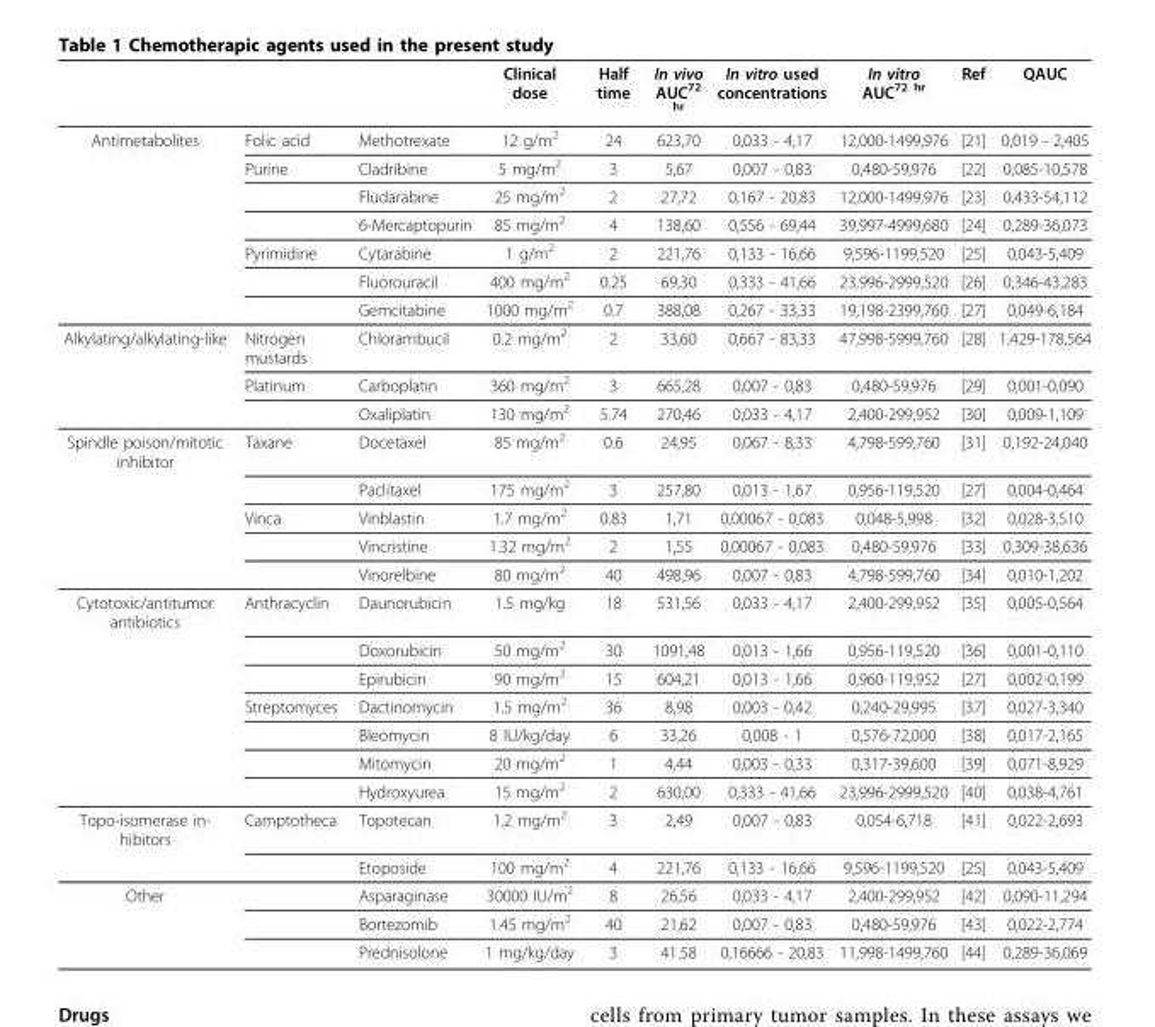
<table><thead><tr><td></td><td></td><td></td><td>Clinical dose</td><td>Half time</td><td>In vivo AUC<sup>72 hr</sup></td><td>In vitro used concentrations</td><td>In vitro AUC<sup>72 hr</sup></td><td>Ref</td><td>QAUC</td></tr></thead><tbody><tr><td rowspan="7">Antimetabolites</td><td>Folic acid</td><td>Methotrexate</td><td>12 g/m<sup>2</sup></td><td>24</td><td>623,70</td><td>0,033 - 4,17</td><td>12,000-1499,976</td><td>[21]</td><td>0,019 - 2,405</td></tr><tr><td>Purine</td><td>Cladribine</td><td>5 mg/m<sup>2</sup></td><td>3</td><td>5,67</td><td>0,007 - 0,83</td><td>0,480-59,976</td><td>[22]</td><td>0,085-10,578</td></tr><tr><td></td><td>Fludarabine</td><td>25 mg/m<sup>2</sup></td><td>2</td><td>27,72</td><td>0,167 - 20,83</td><td>12,000-1499,976</td><td>[23]</td><td>0,433-54,112</td></tr><tr><td></td><td>6-Mercaptopurin</td><td>85 mg/m<sup>2</sup></td><td>4</td><td>138,60</td><td>0,556 - 69,44</td><td>39,997-4999,680</td><td>[24]</td><td>0,289-36,073</td></tr><tr><td>Pyrimidine</td><td>Cytarabine</td><td>1 g/m<sup>2</sup></td><td>2</td><td>221,76</td><td>0,133 - 16,66</td><td>9,596-1199,520</td><td>[25]</td><td>0,043-5,409</td></tr><tr><td></td><td>Fluorouracil</td><td>400 mg/m<sup>2</sup></td><td>0.25</td><td>69,30</td><td>0,333 - 41,66</td><td>23,996-2999,520</td><td>[26]</td><td>0,346-43,283</td></tr><tr><td></td><td>Gemcitabine</td><td>1000 mg/m<sup>2</sup></td><td>0.7</td><td>388,08</td><td>0,267 - 33,33</td><td>19,198-2399,760</td><td>[27]</td><td>0,049-6,184</td></tr><tr><td rowspan="3">Alkylating/alkylating-like</td><td>Nitrogen mustards</td><td>Chlorambucil</td><td>0.2 mg/m<sup>2</sup></td><td>2</td><td>33,60</td><td>0,667 - 83,33</td><td>47,998-5999,760</td><td>[28]</td><td>1,429-178,564</td></tr><tr><td>Platinum</td><td>Carboplatin</td><td>360 mg/m<sup>2</sup></td><td>3</td><td>665,28</td><td>0,007 - 0,83</td><td>0,480-59,976</td><td>[29]</td><td>0,001-0,090</td></tr><tr><td></td><td>Oxaliplatin</td><td>130 mg/m<sup>2</sup></td><td>5.74</td><td>270,46</td><td>0,033 - 4,17</td><td>2,400-299,952</td><td>[30]</td><td>0,009-1,109</td></tr><tr><td rowspan="5">Spindle poison/mitotic inhibitor</td><td>Taxane</td><td>Docetaxel</td><td>85 mg/m<sup>2</sup></td><td>0.6</td><td>24,95</td><td>0,067 - 8,33</td><td>4,798-599,760</td><td>[31]</td><td>0,192-24,040</td></tr><tr><td></td><td>Paclitaxel</td><td>175 mg/m<sup>2</sup></td><td>3</td><td>257,80</td><td>0,013 - 1,67</td><td>0,956-119,520</td><td>[27]</td><td>0,004-0,464</td></tr><tr><td>Vinca</td><td>Vinblastin</td><td>1.7 mg/m<sup>2</sup></td><td>0.83</td><td>1,71</td><td>0,00067 - 0,083</td><td>0,048-5,998</td><td>[32]</td><td>0,028-3,510</td></tr><tr><td></td><td>Vincristine</td><td>1.32 mg/m<sup>2</sup></td><td>2</td><td>1,55</td><td>0,00067 - 0,083</td><td>0,480-59,976</td><td>[33]</td><td>0,309-38,636</td></tr><tr><td></td><td>Vinorelbine</td><td>80 mg/m<sup>2</sup></td><td>40</td><td>498,96</td><td>0,007 - 0,83</td><td>4,798-599,760</td><td>[34]</td><td>0,010-1,202</td></tr><tr><td rowspan="7">Cytotoxic/antitumor antibiotics</td><td>Anthracyclin</td><td>Daunorubicin</td><td>1.5 mg/kg</td><td>18</td><td>531,56</td><td>0,033 - 4,17</td><td>2,400-299,952</td><td>[35]</td><td>0,005-0,564</td></tr><tr><td></td><td>Doxorubicin</td><td>50 mg/m<sup>2</sup></td><td>30</td><td>1091,48</td><td>0,013 - 1,66</td><td>0,956-119,520</td><td>[36]</td><td>0,001-0,110</td></tr><tr><td></td><td>Epirubicin</td><td>90 mg/m<sup>2</sup></td><td>15</td><td>604,21</td><td>0,013 - 1,66</td><td>0,960-119,952</td><td>[27]</td><td>0,002-0,199</td></tr><tr><td>Streptomyces</td><td>Dactinomycin</td><td>1.5 mg/m<sup>2</sup></td><td>36</td><td>8,98</td><td>0,003 - 0,42</td><td>0,240-29,995</td><td>[37]</td><td>0,027-3,340</td></tr><tr><td></td><td>Bleomycin</td><td>8 IU/kg/day</td><td>6</td><td>33,26</td><td>0,008 - 1</td><td>0,576-72,000</td><td>[38]</td><td>0,017-2,165</td></tr><tr><td></td><td>Mitomycin</td><td>20 mg/m<sup>2</sup></td><td>1</td><td>4,44</td><td>0,003 - 0,33</td><td>0,317-39,600</td><td>[39]</td><td>0,071-8,929</td></tr><tr><td></td><td>Hydroxyurea</td><td>15 mg/m<sup>2</sup></td><td>2</td><td>630,00</td><td>0,333 - 41,66</td><td>23,996-2999,520</td><td>[40]</td><td>0,038-4,761</td></tr><tr><td rowspan="2">Topo-isomerase in- hibitors</td><td>Camptotheca</td><td>Topotecan</td><td>1.2 mg/m<sup>2</sup></td><td>3</td><td>2,49</td><td>0,007 - 0,83</td><td>0,054-6,718</td><td>[41]</td><td>0,022-2,693</td></tr><tr><td></td><td>Etoposide</td><td>100 mg/m<sup>2</sup></td><td>4</td><td>221,76</td><td>0,133 - 16,66</td><td>9,596-1199,520</td><td>[25]</td><td>0,043-5,409</td></tr><tr><td rowspan="3">Other</td><td></td><td>Asparaginase</td><td>30000 IU/m<sup>2</sup></td><td>8</td><td>26,56</td><td>0,033 - 4,17</td><td>2,400-299,952</td><td>[42]</td><td>0,090-11,294</td></tr><tr><td></td><td>Bortezomib</td><td>1.45 mg/m<sup>2</sup></td><td>40</td><td>21,62</td><td>0,007 - 0,83</td><td>0,480-59,976</td><td>[43]</td><td>0,022-2,774</td></tr><tr><td></td><td>Prednisolone</td><td>1 mg/kg/day</td><td>3</td><td>41.58</td><td>0,16666 - 20,83</td><td>11,998-1499,760</td><td>[44]</td><td>0,289-36,069</td></tr></tbody></table>